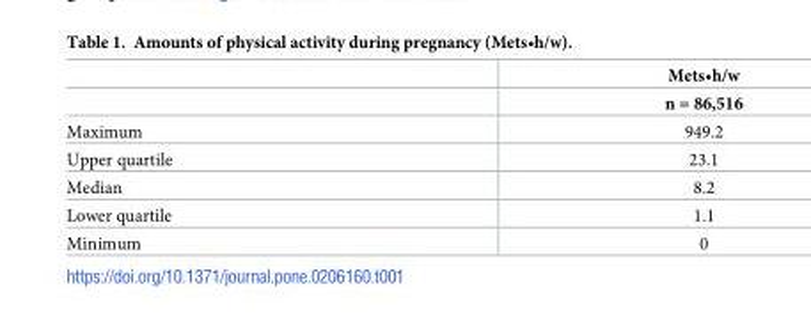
<table><thead><tr><td rowspan="2"></td><td rowspan="2">Mets•h/w n = 86,516</td></tr><tr></tr></thead><tbody><tr><td>Maximum</td><td>949.2</td></tr><tr><td>Upper quartile</td><td>23.1</td></tr><tr><td>Median</td><td>8.2</td></tr><tr><td>Lower quartile</td><td>1.1</td></tr><tr><td>Minimum</td><td>0</td></tr></tbody></table>